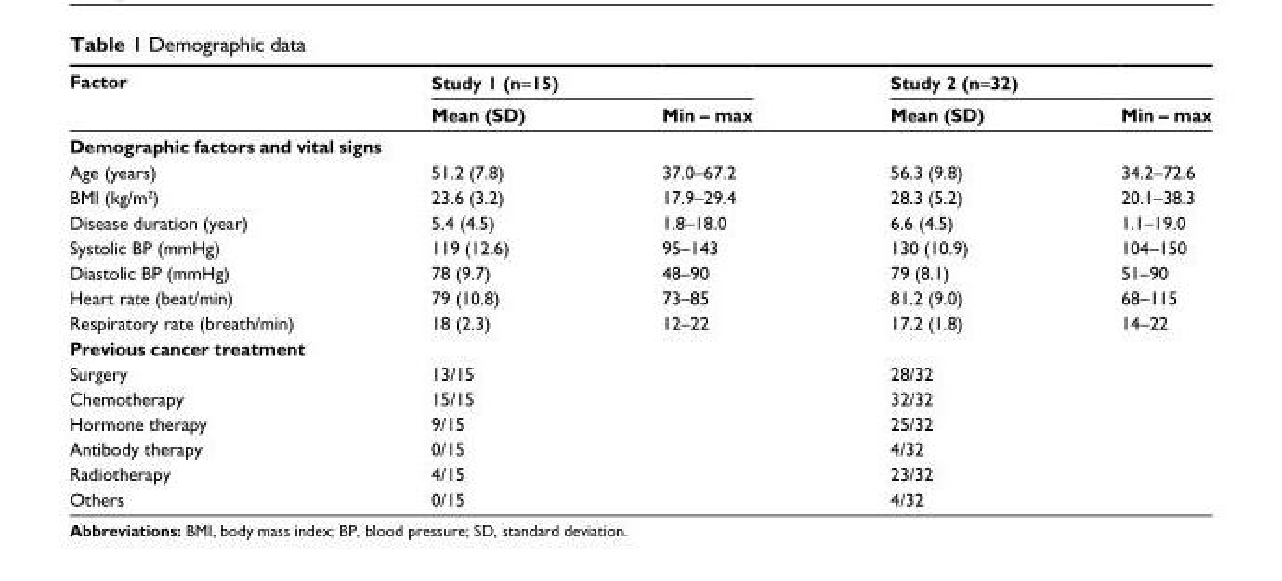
<table><thead><tr><td rowspan="2">Factor</td><td colspan="2">Study 1 (n=15)</td><td colspan="2">Study 2 (n=32)</td></tr><tr><td>Mean (SD)</td><td>Min – max</td><td>Mean (SD)</td><td>Min – max</td></tr></thead><tbody><tr><td colspan="5">Demographic factors and vital signs</td></tr><tr><td>age (years)</td><td>51.2 (7.8)</td><td>37.0–67.2</td><td>56.3 (9.8)</td><td>34.2–72.6</td></tr><tr><td>BMi (kg/m<sup>2</sup>)</td><td>23.6 (3.2)</td><td>17.9–29.4</td><td>28.3 (5.2)</td><td>20.1–38.3</td></tr><tr><td>Disease duration (year)</td><td>5.4 (4.5)</td><td>1.8–18.0</td><td>6.6 (4.5)</td><td>1.1–19.0</td></tr><tr><td>systolic BP (mmhg)</td><td>119 (12.6)</td><td>95–143</td><td>130 (10.9)</td><td>104–150</td></tr><tr><td>Diastolic BP (mmhg)</td><td>78 (9.7)</td><td>48–90</td><td>79 (8.1)</td><td>51–90</td></tr><tr><td>heart rate (beat/min)</td><td>79 (10.8)</td><td>73–85</td><td>81.2 (9.0)</td><td>68–115</td></tr><tr><td>respiratory rate (breath/min)</td><td>18 (2.3)</td><td>12–22</td><td>17.2 (1.8)</td><td>14–22</td></tr><tr><td colspan="5">Previous cancer treatment</td></tr><tr><td>surgery</td><td>13/15</td><td></td><td>28/32</td><td></td></tr><tr><td>chemotherapy</td><td>15/15</td><td></td><td>32/32</td><td></td></tr><tr><td>hormone therapy</td><td>9/15</td><td></td><td>25/32</td><td></td></tr><tr><td>antibody therapy</td><td>0/15</td><td></td><td>4/32</td><td></td></tr><tr><td>radiotherapy</td><td>4/15</td><td></td><td>23/32</td><td></td></tr><tr><td>Others</td><td>0/15</td><td></td><td>4/32</td><td></td></tr></tbody></table>